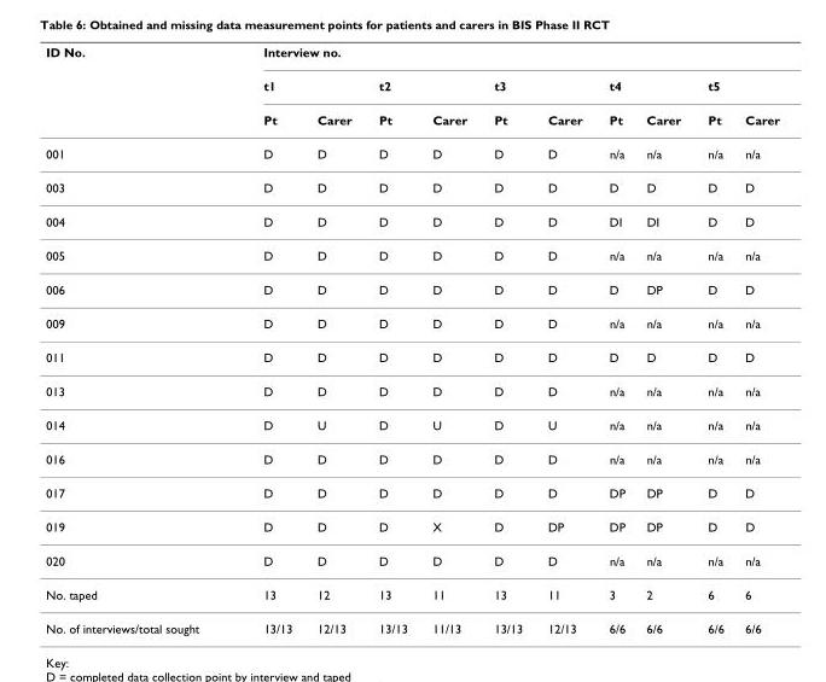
<table><thead><tr><td rowspan="3">ID No.</td><td colspan="10">Interview no.</td></tr><tr><td colspan="2">t1</td><td colspan="2">t2</td><td colspan="2">t3</td><td colspan="2">t4</td><td colspan="2">t5</td></tr><tr><td>Pt</td><td>Carer</td><td>Pt</td><td>Carer</td><td>Pt</td><td>Carer</td><td>Pt</td><td>Carer</td><td>Pt</td><td>Carer</td></tr></thead><tbody><tr><td>001</td><td>D</td><td>D</td><td>D</td><td>D</td><td>D</td><td>D</td><td>n/a</td><td>n/a</td><td>n/a</td><td>n/a</td></tr><tr><td>003</td><td>D</td><td>D</td><td>D</td><td>D</td><td>D</td><td>D</td><td>D</td><td>D</td><td>D</td><td>D</td></tr><tr><td>004</td><td>D</td><td>D</td><td>D</td><td>D</td><td>D</td><td>D</td><td>DI</td><td>DI</td><td>D</td><td>D</td></tr><tr><td>005</td><td>D</td><td>D</td><td>D</td><td>D</td><td>D</td><td>D</td><td>n/a</td><td>n/a</td><td>n/a</td><td>n/a</td></tr><tr><td>006</td><td>D</td><td>D</td><td>D</td><td>D</td><td>D</td><td>D</td><td>D</td><td>DP</td><td>D</td><td>D</td></tr><tr><td>009</td><td>D</td><td>D</td><td>D</td><td>D</td><td>D</td><td>D</td><td>n/a</td><td>n/a</td><td>n/a</td><td>n/a</td></tr><tr><td>011</td><td>D</td><td>D</td><td>D</td><td>D</td><td>D</td><td>D</td><td>D</td><td>D</td><td>D</td><td>D</td></tr><tr><td>013</td><td>D</td><td>D</td><td>D</td><td>D</td><td>D</td><td>D</td><td>n/a</td><td>n/a</td><td>n/a</td><td>n/a</td></tr><tr><td>014</td><td>D</td><td>U</td><td>D</td><td>U</td><td>D</td><td>U</td><td>n/a</td><td>n/a</td><td>n/a</td><td>n/a</td></tr><tr><td>016</td><td>D</td><td>D</td><td>D</td><td>D</td><td>D</td><td>D</td><td>n/a</td><td>n/a</td><td>n/a</td><td>n/a</td></tr><tr><td>017</td><td>D</td><td>D</td><td>D</td><td>D</td><td>D</td><td>D</td><td>DP</td><td>DP</td><td>D</td><td>D</td></tr><tr><td>019</td><td>D</td><td>D</td><td>D</td><td>X</td><td>D</td><td>DP</td><td>DP</td><td>DP</td><td>D</td><td>D</td></tr><tr><td>020</td><td>D</td><td>D</td><td>D</td><td>D</td><td>D</td><td>D</td><td>n/a</td><td>n/a</td><td>n/a</td><td>n/a</td></tr><tr><td>No. taped</td><td>13</td><td>12</td><td>13</td><td>11</td><td>13</td><td>11</td><td>3</td><td>2</td><td>6</td><td>6</td></tr><tr><td>No. of interviews/total sought</td><td>13/13</td><td>12/13</td><td>13/13</td><td>11/13</td><td>13/13</td><td>12/13</td><td>6/6</td><td>6/6</td><td>6/6</td><td>6/6</td></tr></tbody></table>